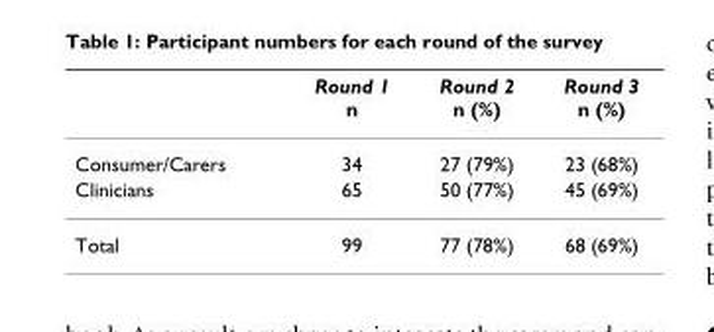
<table><thead><tr><td></td><td>Round 1 n</td><td>Round 2 n (%)</td><td>Round 3 n (%)</td></tr></thead><tbody><tr><td>Consumer/Carers</td><td>34</td><td>27 (79%)</td><td>23 (68%)</td></tr><tr><td>Clinicians</td><td>65</td><td>50 (77%)</td><td>45 (69%)</td></tr><tr><td>Total</td><td>99</td><td>77 (78%)</td><td>68 (69%)</td></tr></tbody></table>